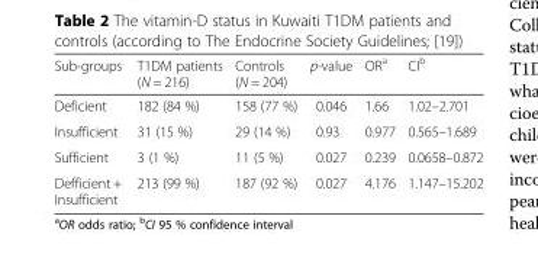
<table><thead><tr><td>Sub-groups</td><td>T1DM patients (N = 216)</td><td>Controls (N = 204)</td><td>p-value</td><td>OR<sup>a</sup></td><td>CI<sup>b</sup></td></tr></thead><tbody><tr><td>Deficient</td><td>182 (84 %)</td><td>158 (77 %)</td><td>0.046</td><td>1.66</td><td>1.02–2.701</td></tr><tr><td>Insufficient</td><td>31 (15 %)</td><td>29 (14 %)</td><td>0.93</td><td>0.977</td><td>0.565–1.689</td></tr><tr><td>Sufficient</td><td>3 (1 %)</td><td>11 (5 %)</td><td>0.027</td><td>0.239</td><td>0.0658–0.872</td></tr><tr><td>Defficient + Insufficient</td><td>213 (99 %)</td><td>187 (92 %)</td><td>0.027</td><td>4.176</td><td>1.147–15.202</td></tr></tbody></table>